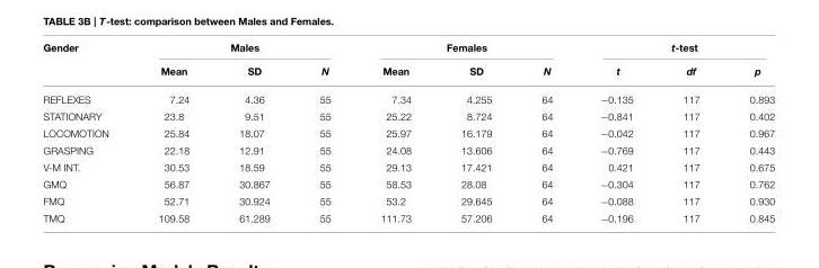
<table><thead><tr><td rowspan="2">Gender</td><td colspan="3">Males</td><td colspan="3">Females</td><td colspan="3">t-test</td></tr><tr><td>Mean</td><td>SD</td><td>N</td><td>Mean</td><td>SD</td><td>N</td><td>t</td><td>df</td><td>p</td></tr></thead><tbody><tr><td>REFLEXES</td><td>7.24</td><td>4.36</td><td>55</td><td>7.34</td><td>4.255</td><td>64</td><td>−0.135</td><td>117</td><td>0.893</td></tr><tr><td>STATIONARY</td><td>23.8</td><td>9.51</td><td>55</td><td>25.22</td><td>8.724</td><td>64</td><td>−0.841</td><td>117</td><td>0.402</td></tr><tr><td>LOCOMOTION</td><td>25.84</td><td>18.07</td><td>55</td><td>25.97</td><td>16.179</td><td>64</td><td>−0.042</td><td>117</td><td>0.967</td></tr><tr><td>GRASPING</td><td>22.18</td><td>12.91</td><td>55</td><td>24.08</td><td>13.606</td><td>64</td><td>−0.769</td><td>117</td><td>0.443</td></tr><tr><td>V-M INT.</td><td>30.53</td><td>18.59</td><td>55</td><td>29.13</td><td>17.421</td><td>64</td><td>0.421</td><td>117</td><td>0.675</td></tr><tr><td>GMQ</td><td>56.87</td><td>30.867</td><td>55</td><td>58.53</td><td>28.08</td><td>64</td><td>−0.304</td><td>117</td><td>0.762</td></tr><tr><td>FMQ</td><td>52.71</td><td>30.924</td><td>55</td><td>53.2</td><td>29.645</td><td>64</td><td>−0.088</td><td>117</td><td>0.930</td></tr><tr><td>TMQ</td><td>109.58</td><td>61.289</td><td>55</td><td>111.73</td><td>57.206</td><td>64</td><td>−0.196</td><td>117</td><td>0.845</td></tr></tbody></table>